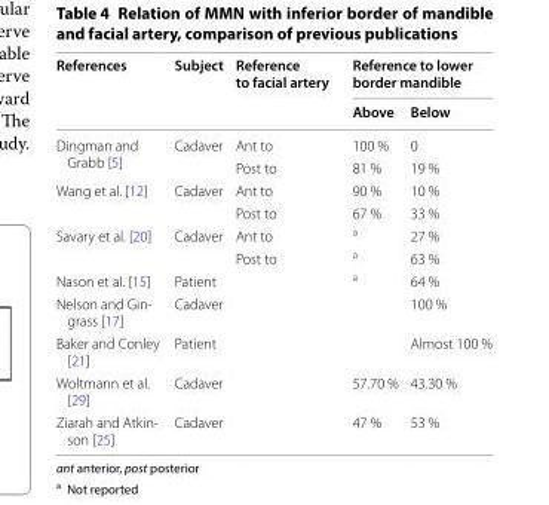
<table><thead><tr><td rowspan="2">References</td><td rowspan="2">Subject</td><td rowspan="2">Reference to facial artery</td><td colspan="2">Reference to lower border mandible</td></tr><tr><td>Above</td><td>Below</td></tr></thead><tbody><tr><td rowspan="2">Dingman and Grabb [5]</td><td rowspan="2">Cadaver</td><td>Ant to</td><td>100 %</td><td>0</td></tr><tr><td>Post to</td><td>81 %</td><td>19 %</td></tr><tr><td rowspan="2">Wang et al. [12]</td><td rowspan="2">Cadaver</td><td>Ant to</td><td>90 %</td><td>10 %</td></tr><tr><td>Post to</td><td>67 %</td><td>33 %</td></tr><tr><td rowspan="2">Savary et al. [20]</td><td rowspan="2">Cadaver</td><td>Ant to</td><td><sup>a</sup></td><td>27 %</td></tr><tr><td>Post to</td><td><sup>a</sup></td><td>63 %</td></tr><tr><td>Nason et al. [15]</td><td>Patient</td><td></td><td><sup>a</sup></td><td>64 %</td></tr><tr><td>Nelson and Gin‑ grass [17]</td><td>Cadaver</td><td></td><td></td><td>100 %</td></tr><tr><td>Baker and Conley [21]</td><td>Patient</td><td></td><td></td><td>Almost 100 %</td></tr><tr><td>Woltmann et al. [29]</td><td>Cadaver</td><td></td><td>57.70 %</td><td>43.30 %</td></tr><tr><td>Ziarah and Atkin‑ son [25]</td><td>Cadaver</td><td></td><td>47 %</td><td>53 %</td></tr></tbody></table>